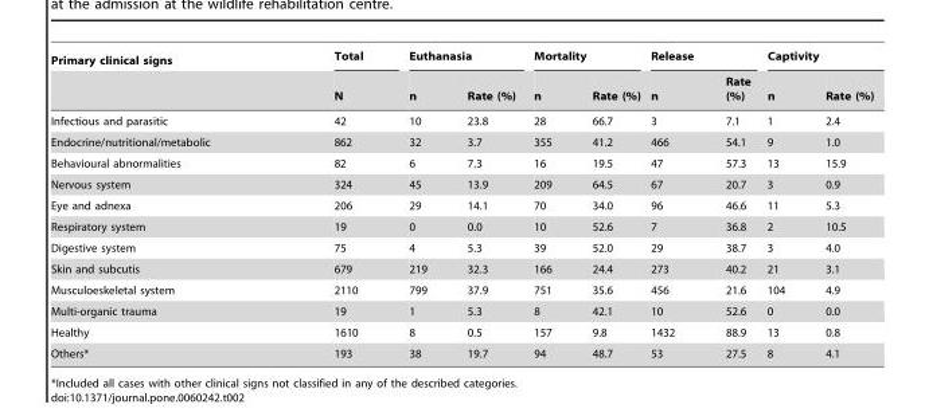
<table><thead><tr><td rowspan="2">Primary clinical signs</td><td rowspan="2">Total N</td><td colspan="2">Euthanasia</td><td colspan="2">Mortality</td><td colspan="2">Release</td><td colspan="2">Captivity</td></tr><tr><td>n</td><td>Rate (%)</td><td>n</td><td>Rate (%)</td><td>n</td><td>Rate (%)</td><td>n</td><td>Rate (%)</td></tr></thead><tbody><tr><td>Infectious and parasitic</td><td>42</td><td>10</td><td>23.8</td><td>28</td><td>66.7</td><td>3</td><td>7.1</td><td>1</td><td>2.4</td></tr><tr><td>Endocrine/nutritional/metabolic</td><td>862</td><td>32</td><td>3.7</td><td>355</td><td>41.2</td><td>466</td><td>54.1</td><td>9</td><td>1.0</td></tr><tr><td>Behavioural abnormalities</td><td>82</td><td>6</td><td>7.3</td><td>16</td><td>19.5</td><td>47</td><td>57.3</td><td>13</td><td>15.9</td></tr><tr><td>Nervous system</td><td>324</td><td>45</td><td>13.9</td><td>209</td><td>64.5</td><td>67</td><td>20.7</td><td>3</td><td>0.9</td></tr><tr><td>Eye and adnexa</td><td>206</td><td>29</td><td>14.1</td><td>70</td><td>34.0</td><td>96</td><td>46.6</td><td>11</td><td>5.3</td></tr><tr><td>Respiratory system</td><td>19</td><td>0</td><td>0.0</td><td>10</td><td>52.6</td><td>7</td><td>36.8</td><td>2</td><td>10.5</td></tr><tr><td>Digestive system</td><td>75</td><td>4</td><td>5.3</td><td>39</td><td>52.0</td><td>29</td><td>38.7</td><td>3</td><td>4.0</td></tr><tr><td>Skin and subcutis</td><td>679</td><td>219</td><td>32.3</td><td>166</td><td>24.4</td><td>273</td><td>40.2</td><td>21</td><td>3.1</td></tr><tr><td>Musculoeskeletal system</td><td>2110</td><td>799</td><td>37.9</td><td>751</td><td>35.6</td><td>456</td><td>21.6</td><td>104</td><td>4.9</td></tr><tr><td>Multi-organic trauma</td><td>19</td><td>1</td><td>5.3</td><td>8</td><td>42.1</td><td>10</td><td>52.6</td><td>0</td><td>0.0</td></tr><tr><td>Healthy</td><td>1610</td><td>8</td><td>0.5</td><td>157</td><td>9.8</td><td>1432</td><td>88.9</td><td>13</td><td>0.8</td></tr><tr><td>Others*</td><td>193</td><td>38</td><td>19.7</td><td>94</td><td>48.7</td><td>53</td><td>27.5</td><td>8</td><td>4.1</td></tr></tbody></table>